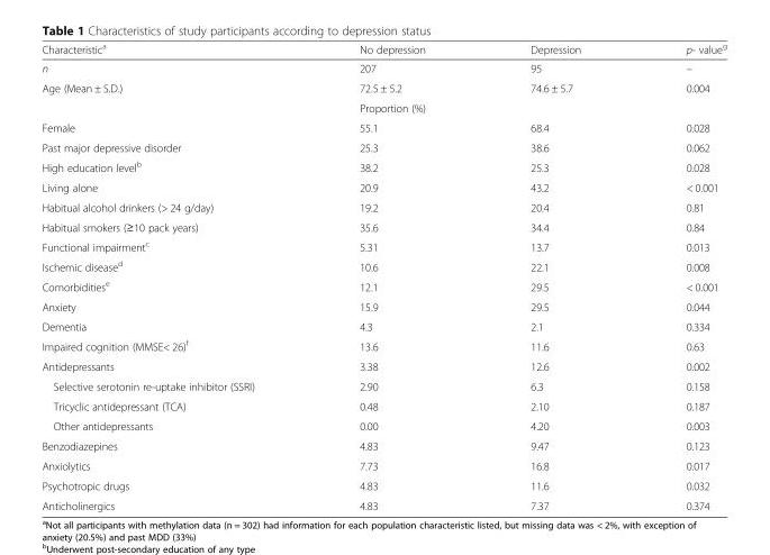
<table><thead><tr><td>Characteristic<sup>a</sup></td><td>No depression</td><td>Depression</td><td>p- value<sup>g</sup></td></tr></thead><tbody><tr><td>n</td><td>207</td><td>95</td><td>–</td></tr><tr><td rowspan="2">Age (Mean ± S.D.)</td><td>72.5 ± 5.2</td><td>74.6 ± 5.7</td><td>0.004</td></tr><tr><td colspan="3">Proportion (%)</td></tr><tr><td>Female</td><td>55.1</td><td>68.4</td><td>0.028</td></tr><tr><td>Past major depressive disorder</td><td>25.3</td><td>38.6</td><td>0.062</td></tr><tr><td>High education level<sup>b</sup></td><td>38.2</td><td>25.3</td><td>0.028</td></tr><tr><td>Living alone</td><td>20.9</td><td>43.2</td><td>&lt; 0.001</td></tr><tr><td>Habitual alcohol drinkers (&gt; 24 g/day)</td><td>19.2</td><td>20.4</td><td>0.81</td></tr><tr><td>Habitual smokers (≥10 pack years)</td><td>35.6</td><td>34.4</td><td>0.84</td></tr><tr><td>Functional impairment<sup>c</sup></td><td>5.31</td><td>13.7</td><td>0.013</td></tr><tr><td>Ischemic disease<sup>d</sup></td><td>10.6</td><td>22.1</td><td>0.008</td></tr><tr><td>Comorbidities<sup>e</sup></td><td>12.1</td><td>29.5</td><td>&lt; 0.001</td></tr><tr><td>Anxiety</td><td>15.9</td><td>29.5</td><td>0.044</td></tr><tr><td>Dementia</td><td>4.3</td><td>2.1</td><td>0.334</td></tr><tr><td>Impaired cognition (MMSE&lt; 26)<sup>f</sup></td><td>13.6</td><td>11.6</td><td>0.63</td></tr><tr><td>Antidepressants</td><td>3.38</td><td>12.6</td><td>0.002</td></tr><tr><td>Selective serotonin re-uptake inhibitor (SSRI)</td><td>2.90</td><td>6.3</td><td>0.158</td></tr><tr><td>Tricyclic antidepressant (TCA)</td><td>0.48</td><td>2.10</td><td>0.187</td></tr><tr><td>Other antidepressants</td><td>0.00</td><td>4.20</td><td>0.003</td></tr><tr><td>Benzodiazepines</td><td>4.83</td><td>9.47</td><td>0.123</td></tr><tr><td>Anxiolytics</td><td>7.73</td><td>16.8</td><td>0.017</td></tr><tr><td>Psychotropic drugs</td><td>4.83</td><td>11.6</td><td>0.032</td></tr><tr><td>Anticholinergics</td><td>4.83</td><td>7.37</td><td>0.374</td></tr></tbody></table>